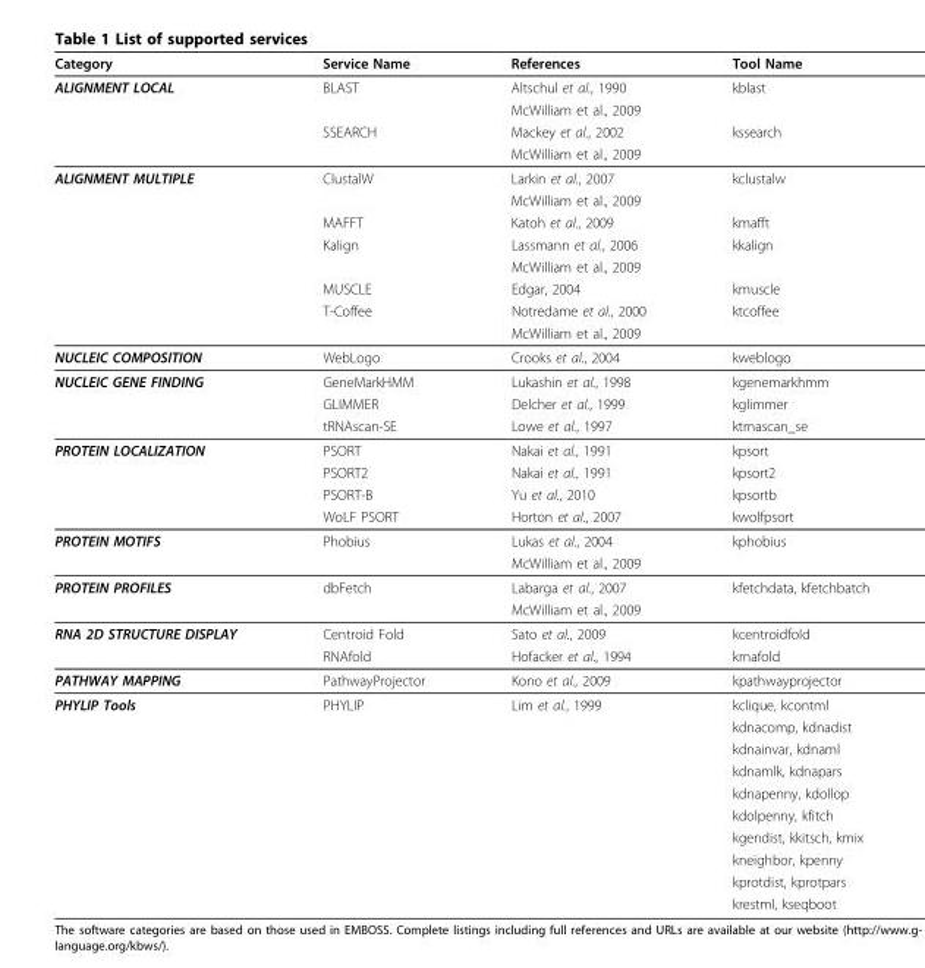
<table><thead><tr><td>Category</td><td>Service Name</td><td>References</td><td>Tool Name</td></tr></thead><tbody><tr><td rowspan="4">ALIGNMENT LOCAL</td><td>BLAST</td><td>Altschul et al., 1990</td><td>kblast</td></tr><tr><td></td><td>McWilliam et al., 2009</td><td></td></tr><tr><td>SSEARCH</td><td>Mackey et al., 2002</td><td>kssearch</td></tr><tr><td></td><td>McWilliam et al., 2009</td><td></td></tr><tr><td rowspan="8">ALIGNMENT MULTIPLE</td><td>ClustalW</td><td>Larkin et al., 2007</td><td>kclustalw</td></tr><tr><td></td><td>McWilliam et al., 2009</td><td></td></tr><tr><td>MAFFT</td><td>Katoh et al., 2009</td><td>kmafft</td></tr><tr><td>Kalign</td><td>Lassmann et al., 2006</td><td>kkalign</td></tr><tr><td></td><td>McWilliam et al., 2009</td><td></td></tr><tr><td>MUSCLE</td><td>Edgar, 2004</td><td>kmuscle</td></tr><tr><td>T-Coffee</td><td>Notredame et al., 2000</td><td>ktcoffee</td></tr><tr><td></td><td>McWilliam et al., 2009</td><td></td></tr><tr><td>NUCLEIC COMPOSITION</td><td>WebLogo</td><td>Crooks et al., 2004</td><td>kweblogo</td></tr><tr><td rowspan="3">NUCLEIC GENE FINDING</td><td>GeneMarkHMM</td><td>Lukashin et al., 1998</td><td>kgenemarkhmm</td></tr><tr><td>GLIMMER</td><td>Delcher et al., 1999</td><td>kglimmer</td></tr><tr><td>tRNAscan-SE</td><td>Lowe et al., 1997</td><td>ktrnascan_se</td></tr><tr><td rowspan="4">PROTEIN LOCALIZATION</td><td>PSORT</td><td>Nakai et al., 1991</td><td>kpsort</td></tr><tr><td>PSORT2</td><td>Nakai et al., 1991</td><td>kpsort2</td></tr><tr><td>PSORT-B</td><td>Yu et al., 2010</td><td>kpsortb</td></tr><tr><td>WoLF PSORT</td><td>Horton et al., 2007</td><td>kwolfpsort</td></tr><tr><td rowspan="2">PROTEIN MOTIFS</td><td>Phobius</td><td>Lukas et al., 2004</td><td>kphobius</td></tr><tr><td></td><td>McWilliam et al., 2009</td><td></td></tr><tr><td rowspan="2">PROTEIN PROFILES</td><td>dbFetch</td><td>Labarga et al., 2007</td><td>kfetchdata, kfetchbatch</td></tr><tr><td></td><td>McWilliam et al., 2009</td><td></td></tr><tr><td rowspan="2">RNA 2D STRUCTURE DISPLAY</td><td>Centroid Fold</td><td>Sato et al., 2009</td><td>kcentroidfold</td></tr><tr><td>RNAfold</td><td>Hofacker et al., 1994</td><td>krnafold</td></tr><tr><td>PATHWAY MAPPING</td><td>PathwayProjector</td><td>Kono et al., 2009</td><td>kpathwayprojector</td></tr><tr><td rowspan="10">PHYLIP Tools</td><td>PHYLIP</td><td>Lim et al., 1999</td><td>kclique, kcontml</td></tr><tr><td></td><td></td><td>kdnacomp, kdnadist</td></tr><tr><td></td><td></td><td>kdnainvar, kdnaml</td></tr><tr><td></td><td></td><td>kdnamlk, kdnapars</td></tr><tr><td></td><td></td><td>kdnapenny, kdollop</td></tr><tr><td></td><td></td><td>kdolpenny, kfitch</td></tr><tr><td></td><td></td><td>kgendist, kkitsch, kmix</td></tr><tr><td></td><td></td><td>kneighbor, kpenny</td></tr><tr><td></td><td></td><td>kprotdist, kprotpars</td></tr><tr><td></td><td></td><td>krestml, kseqboot</td></tr></tbody></table>